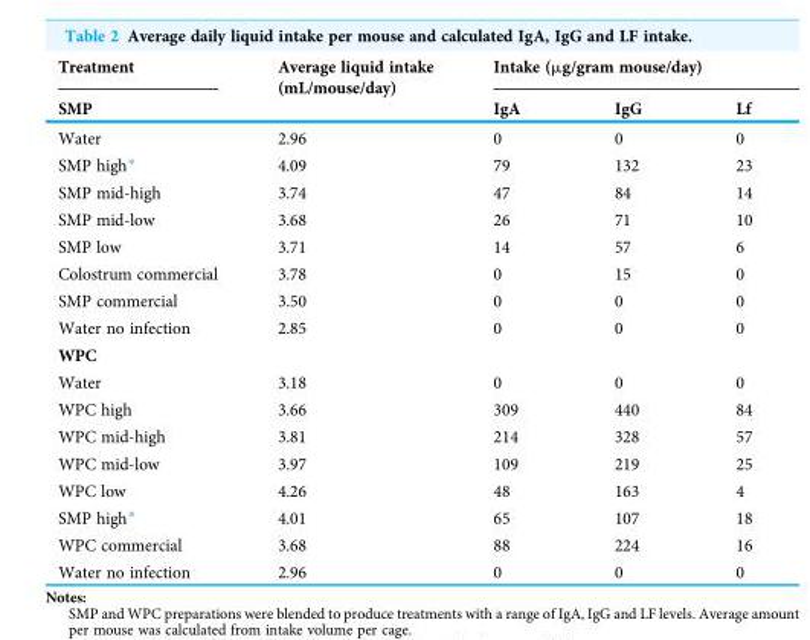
<table><thead><tr><td rowspan="2">Treatment SMP</td><td rowspan="2">Average liquid intake (mL/mouse/day)</td><td colspan="3">Intake (μg/gram mouse/day)</td></tr><tr><td>IgA</td><td>IgG</td><td>Lf</td></tr></thead><tbody><tr><td>Water</td><td>2.96</td><td>0</td><td>0</td><td>0</td></tr><tr><td>SMP high*</td><td>4.09</td><td>79</td><td>132</td><td>23</td></tr><tr><td>SMP mid-high</td><td>3.74</td><td>47</td><td>84</td><td>14</td></tr><tr><td>SMP mid-low</td><td>3.68</td><td>26</td><td>71</td><td>10</td></tr><tr><td>SMP low</td><td>3.71</td><td>14</td><td>57</td><td>6</td></tr><tr><td>Colostrum commercial</td><td>3.78</td><td>0</td><td>15</td><td>0</td></tr><tr><td>SMP commercial</td><td>3.50</td><td>0</td><td>0</td><td>0</td></tr><tr><td>Water no infection</td><td>2.85</td><td>0</td><td>0</td><td>0</td></tr><tr><td colspan="5">WPC</td></tr><tr><td>Water</td><td>3.18</td><td>0</td><td>0</td><td>0</td></tr><tr><td>WPC high</td><td>3.66</td><td>309</td><td>440</td><td>84</td></tr><tr><td>WPC mid-high</td><td>3.81</td><td>214</td><td>328</td><td>57</td></tr><tr><td>WPC mid-low</td><td>3.97</td><td>109</td><td>219</td><td>25</td></tr><tr><td>WPC low</td><td>4.26</td><td>48</td><td>163</td><td>4</td></tr><tr><td>SMP high*</td><td>4.01</td><td>65</td><td>107</td><td>18</td></tr><tr><td>WPC commercial</td><td>3.68</td><td>88</td><td>224</td><td>16</td></tr><tr><td>Water no infection</td><td>2.96</td><td>0</td><td>0</td><td>0</td></tr></tbody></table>